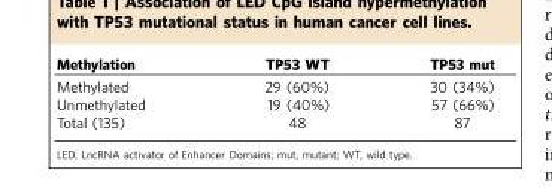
<table><thead><tr><td>Methylation</td><td>TP53 WT</td><td>TP53 mut</td></tr></thead><tbody><tr><td>Methylated</td><td>29 (60%)</td><td>30 (34%)</td></tr><tr><td>Unmethylated</td><td>19 (40%)</td><td>57 (66%)</td></tr><tr><td>Total (135)</td><td>48</td><td>87</td></tr></tbody></table>